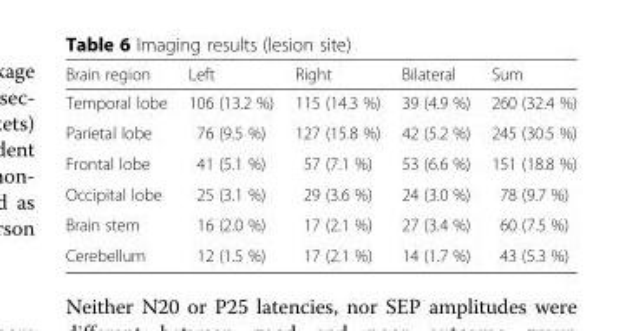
<table><thead><tr><td>Brain region</td><td>Left</td><td>Right</td><td>Bilateral</td><td>Sum</td></tr></thead><tbody><tr><td>Temporal lobe</td><td>106 (13.2 %)</td><td>115 (14.3 %)</td><td>39 (4.9 %)</td><td>260 (32.4 %)</td></tr><tr><td>Parietal lobe</td><td>76 (9.5 %)</td><td>127 (15.8 %)</td><td>42 (5.2 %)</td><td>245 (30.5 %)</td></tr><tr><td>Frontal lobe</td><td>41 (5.1 %)</td><td>57 (7.1 %)</td><td>53 (6.6 %)</td><td>151 (18.8 %)</td></tr><tr><td>Occipital lobe</td><td>25 (3.1 %)</td><td>29 (3.6 %)</td><td>24 (3.0 %)</td><td>78 (9.7 %)</td></tr><tr><td>Brain stem</td><td>16 (2.0 %)</td><td>17 (2.1 %)</td><td>27 (3.4 %)</td><td>60 (7.5 %)</td></tr><tr><td>Cerebellum</td><td>12 (1.5 %)</td><td>17 (2.1 %)</td><td>14 (1.7 %)</td><td>43 (5.3 %)</td></tr></tbody></table>